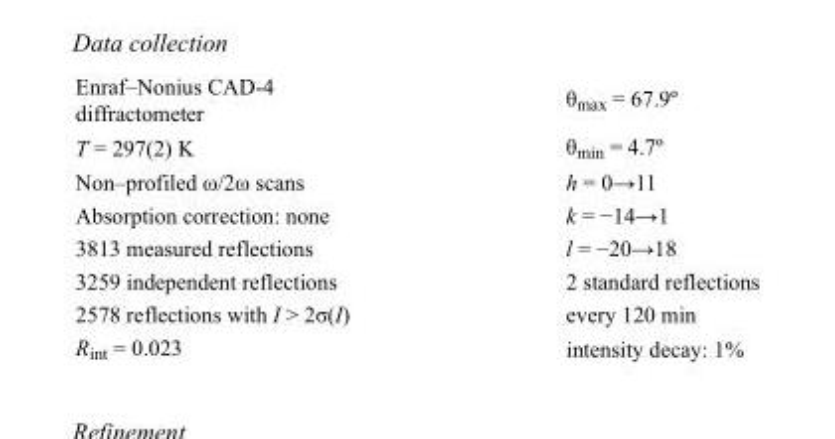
<table><tbody><tr><td>Enraf–Nonius CAD-4 diffractometer</td><td>θ<sub>max</sub> = 67.9º</td></tr><tr><td>T = 297(2) K</td><td>θ<sub>min</sub> = 4.7º</td></tr><tr><td>Non–profiled ω/2ω scans</td><td>h = 0→11</td></tr><tr><td>Absorption correction: none</td><td>k = −14→1</td></tr><tr><td>3813 measured reflections</td><td>l = −20→18</td></tr><tr><td>3259 independent reflections</td><td>2 standard reflections</td></tr><tr><td>2578 reflections with I &gt; 2σ(I)</td><td>every 120 min</td></tr><tr><td>R<sub>int</sub> = 0.023</td><td>intensity decay: 1%</td></tr></tbody></table>